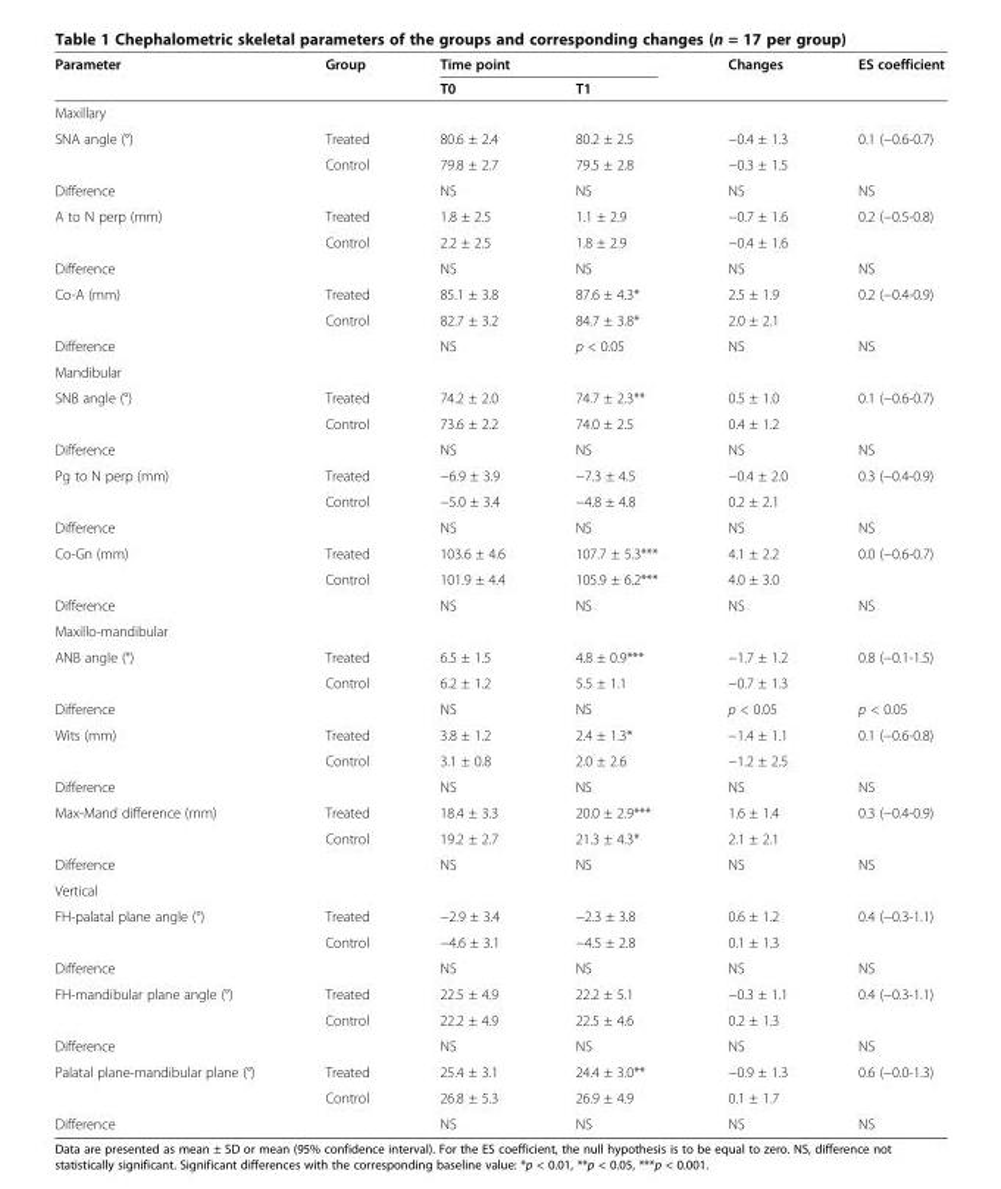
<table><thead><tr><td rowspan="2">Parameter</td><td rowspan="2">Group</td><td colspan="2">Time point</td><td rowspan="2">Changes</td><td rowspan="2">ES coefficient</td></tr><tr><td>T0</td><td>T1</td></tr></thead><tbody><tr><td colspan="6">Maxillary</td></tr><tr><td rowspan="2">SNA angle (°)</td><td>Treated</td><td>80.6 ± 2.4</td><td>80.2 ± 2.5</td><td>−0.4 ± 1.3</td><td rowspan="2">0.1 (−0.6-0.7)</td></tr><tr><td>Control</td><td>79.8 ± 2.7</td><td>79.5 ± 2.8</td><td>−0.3 ± 1.5</td></tr><tr><td>Difference</td><td></td><td>NS</td><td>NS</td><td>NS</td><td>NS</td></tr><tr><td rowspan="2">A to N perp (mm)</td><td>Treated</td><td>1.8 ± 2.5</td><td>1.1 ± 2.9</td><td>−0.7 ± 1.6</td><td rowspan="2">0.2 (−0.5-0.8)</td></tr><tr><td>Control</td><td>2.2 ± 2.5</td><td>1.8 ± 2.9</td><td>−0.4 ± 1.6</td></tr><tr><td>Difference</td><td></td><td>NS</td><td>NS</td><td>NS</td><td>NS</td></tr><tr><td rowspan="2">Co-A (mm)</td><td>Treated</td><td>85.1 ± 3.8</td><td>87.6 ± 4.3*</td><td>2.5 ± 1.9</td><td rowspan="2">0.2 (−0.4-0.9)</td></tr><tr><td>Control</td><td>82.7 ± 3.2</td><td>84.7 ± 3.8*</td><td>2.0 ± 2.1</td></tr><tr><td>Difference</td><td></td><td>NS</td><td>p &lt; 0.05</td><td>NS</td><td>NS</td></tr><tr><td colspan="6">Mandibular</td></tr><tr><td rowspan="2">SNB angle (°)</td><td>Treated</td><td>74.2 ± 2.0</td><td>74.7 ± 2.3**</td><td>0.5 ± 1.0</td><td rowspan="2">0.1 (−0.6-0.7)</td></tr><tr><td>Control</td><td>73.6 ± 2.2</td><td>74.0 ± 2.5</td><td>0.4 ± 1.2</td></tr><tr><td>Difference</td><td></td><td>NS</td><td>NS</td><td>NS</td><td>NS</td></tr><tr><td rowspan="2">Pg to N perp (mm)</td><td>Treated</td><td>−6.9 ± 3.9</td><td>−7.3 ± 4.5</td><td>−0.4 ± 2.0</td><td rowspan="2">0.3 (−0.4-0.9)</td></tr><tr><td>Control</td><td>−5.0 ± 3.4</td><td>−4.8 ± 4.8</td><td>0.2 ± 2.1</td></tr><tr><td>Difference</td><td></td><td>NS</td><td>NS</td><td>NS</td><td>NS</td></tr><tr><td rowspan="2">Co-Gn (mm)</td><td>Treated</td><td>103.6 ± 4.6</td><td>107.7 ± 5.3***</td><td>4.1 ± 2.2</td><td rowspan="2">0.0 (−0.6-0.7)</td></tr><tr><td>Control</td><td>101.9 ± 4.4</td><td>105.9 ± 6.2***</td><td>4.0 ± 3.0</td></tr><tr><td>Difference</td><td></td><td>NS</td><td>NS</td><td>NS</td><td>NS</td></tr><tr><td colspan="6">Maxillo-mandibular</td></tr><tr><td rowspan="2">ANB angle (°)</td><td>Treated</td><td>6.5 ± 1.5</td><td>4.8 ± 0.9***</td><td>−1.7 ± 1.2</td><td rowspan="2">0.8 (−0.1-1.5)</td></tr><tr><td>Control</td><td>6.2 ± 1.2</td><td>5.5 ± 1.1</td><td>−0.7 ± 1.3</td></tr><tr><td>Difference</td><td></td><td>NS</td><td>NS</td><td>p &lt; 0.05</td><td>p &lt; 0.05</td></tr><tr><td rowspan="2">Wits (mm)</td><td>Treated</td><td>3.8 ± 1.2</td><td>2.4 ± 1.3*</td><td>−1.4 ± 1.1</td><td rowspan="2">0.1 (−0.6-0.8)</td></tr><tr><td>Control</td><td>3.1 ± 0.8</td><td>2.0 ± 2.6</td><td>−1.2 ± 2.5</td></tr><tr><td>Difference</td><td></td><td>NS</td><td>NS</td><td>NS</td><td>NS</td></tr><tr><td rowspan="2">Max-Mand difference (mm)</td><td>Treated</td><td>18.4 ± 3.3</td><td>20.0 ± 2.9***</td><td>1.6 ± 1.4</td><td rowspan="2">0.3 (−0.4-0.9)</td></tr><tr><td>Control</td><td>19.2 ± 2.7</td><td>21.3 ± 4.3*</td><td>2.1 ± 2.1</td></tr><tr><td>Difference</td><td></td><td>NS</td><td>NS</td><td>NS</td><td>NS</td></tr><tr><td colspan="6">Vertical</td></tr><tr><td rowspan="2">FH-palatal plane angle (°)</td><td>Treated</td><td>−2.9 ± 3.4</td><td>−2.3 ± 3.8</td><td>0.6 ± 1.2</td><td rowspan="2">0.4 (−0.3-1.1)</td></tr><tr><td>Control</td><td>−4.6 ± 3.1</td><td>−4.5 ± 2.8</td><td>0.1 ± 1.3</td></tr><tr><td>Difference</td><td></td><td>NS</td><td>NS</td><td>NS</td><td>NS</td></tr><tr><td rowspan="2">FH-mandibular plane angle (°)</td><td>Treated</td><td>22.5 ± 4.9</td><td>22.2 ± 5.1</td><td>−0.3 ± 1.1</td><td rowspan="2">0.4 (−0.3-1.1)</td></tr><tr><td>Control</td><td>22.2 ± 4.9</td><td>22.5 ± 4.6</td><td>0.2 ± 1.3</td></tr><tr><td>Difference</td><td></td><td>NS</td><td>NS</td><td>NS</td><td>NS</td></tr><tr><td rowspan="2">Palatal plane-mandibular plane (°)</td><td>Treated</td><td>25.4 ± 3.1</td><td>24.4 ± 3.0**</td><td>−0.9 ± 1.3</td><td rowspan="2">0.6 (−0.0-1.3)</td></tr><tr><td>Control</td><td>26.8 ± 5.3</td><td>26.9 ± 4.9</td><td>0.1 ± 1.7</td></tr><tr><td>Difference</td><td></td><td>NS</td><td>NS</td><td>NS</td><td>NS</td></tr></tbody></table>